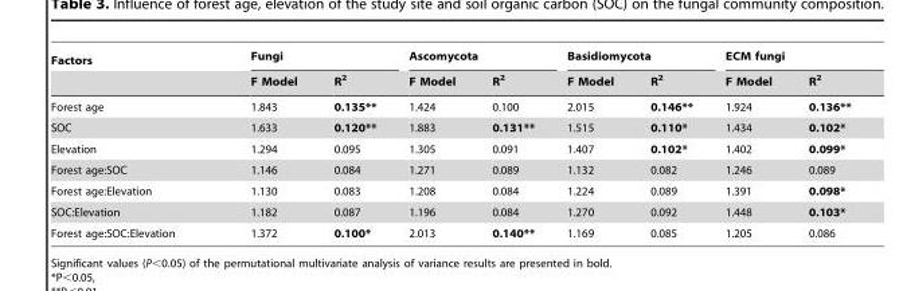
<table><thead><tr><td rowspan="2">Factors</td><td colspan="2">Fungi</td><td colspan="2">Ascomycota</td><td colspan="2">Basidiomycota</td><td colspan="2">ECM fungi</td></tr><tr><td>F Model</td><td>R<sup>2</sup></td><td>F Model</td><td>R<sup>2</sup></td><td>F Model</td><td>R<sup>2</sup></td><td>F Model</td><td>R<sup>2</sup></td></tr></thead><tbody><tr><td>Forest age</td><td>1.843</td><td>0.135**</td><td>1.424</td><td>0.100</td><td>2.015</td><td>0.146**</td><td>1.924</td><td>0.136**</td></tr><tr><td>SOC</td><td>1.633</td><td>0.120**</td><td>1.883</td><td>0.131**</td><td>1.515</td><td>0.110*</td><td>1.434</td><td>0.102*</td></tr><tr><td>Elevation</td><td>1.294</td><td>0.095</td><td>1.305</td><td>0.091</td><td>1.407</td><td>0.102*</td><td>1.402</td><td>0.099*</td></tr><tr><td>Forest age:SOC</td><td>1.146</td><td>0.084</td><td>1.271</td><td>0.089</td><td>1.132</td><td>0.082</td><td>1.246</td><td>0.089</td></tr><tr><td>Forest age:Elevation</td><td>1.130</td><td>0.083</td><td>1.208</td><td>0.084</td><td>1.224</td><td>0.089</td><td>1.391</td><td>0.098*</td></tr><tr><td>SOC:Elevation</td><td>1.182</td><td>0.087</td><td>1.196</td><td>0.084</td><td>1.270</td><td>0.092</td><td>1.448</td><td>0.103*</td></tr><tr><td>Forest age:SOC:Elevation</td><td>1.372</td><td>0.100*</td><td>2.013</td><td>0.140**</td><td>1.169</td><td>0.085</td><td>1.205</td><td>0.086</td></tr></tbody></table>